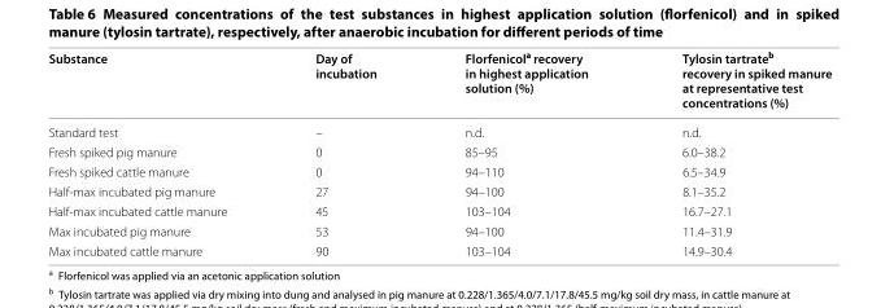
<table><thead><tr><td>Substance</td><td>Day of incubation</td><td>Florfenicol<sup>a</sup> recovery in highest application solution (%)</td><td>Tylosin tartrate<sup>b</sup> recovery in spiked manure at representative test concentrations (%)</td></tr></thead><tbody><tr><td>Standard test</td><td>–</td><td>n.d.</td><td>n.d.</td></tr><tr><td>Fresh spiked pig manure</td><td>0</td><td>85–95</td><td>6.0–38.2</td></tr><tr><td>Fresh spiked cattle manure</td><td>0</td><td>94–110</td><td>6.5–34.9</td></tr><tr><td>Half-max incubated pig manure</td><td>27</td><td>94–100</td><td>8.1–35.2</td></tr><tr><td>Half-max incubated cattle manure</td><td>45</td><td>103–104</td><td>16.7–27.1</td></tr><tr><td>Max incubated pig manure</td><td>53</td><td>94–100</td><td>11.4–31.9</td></tr><tr><td>Max incubated cattle manure</td><td>90</td><td>103–104</td><td>14.9–30.4</td></tr></tbody></table>